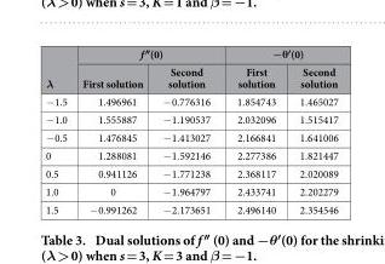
<table><thead><tr><td rowspan="2">λ</td><td colspan="2">f ″(0)</td><td colspan="2">−θ′(0)</td></tr><tr><td>First solution</td><td>Second solution</td><td>First solution</td><td>Second solution</td></tr></thead><tbody><tr><td>− 1.5</td><td>1.496961</td><td>− 0.776316</td><td>1.854743</td><td>1.465027</td></tr><tr><td>− 1.0</td><td>1.555887</td><td>− 1.190537</td><td>2.032096</td><td>1.515417</td></tr><tr><td>− 0.5</td><td>1.476845</td><td>− 1.413027</td><td>2.166841</td><td>1.641006</td></tr><tr><td>0</td><td>1.288081</td><td>− 1.592146</td><td>2.277386</td><td>1.821447</td></tr><tr><td>0.5</td><td>0.941126</td><td>− 1.771238</td><td>2.368117</td><td>2.020089</td></tr><tr><td>1.0</td><td>0</td><td>− 1.964797</td><td>2.433741</td><td>2.202279</td></tr><tr><td>1.5</td><td>− 0.991262</td><td>− 2.173651</td><td>2.496140</td><td>2.354546</td></tr></tbody></table>